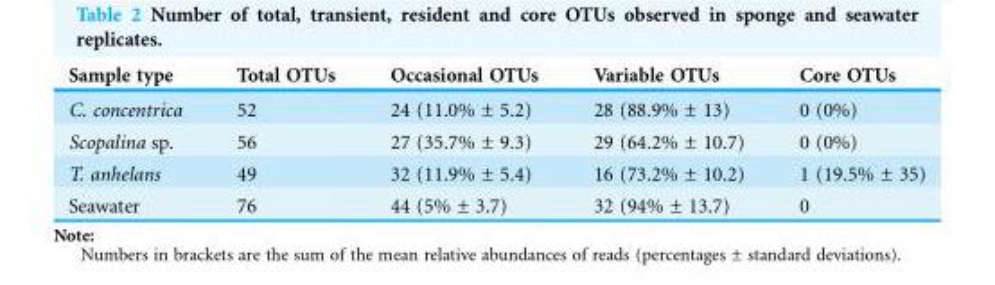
<table><thead><tr><td>Sample type</td><td>Total OTUs</td><td>Occasional OTUs</td><td>Variable OTUs</td><td>Core OTUs</td></tr></thead><tbody><tr><td>C. concentrica</td><td>52</td><td>24 (11.0% ± 5.2)</td><td>28 (88.9% ± 13)</td><td>0 (0%)</td></tr><tr><td>Scopalina sp.</td><td>56</td><td>27 (35.7% ± 9.3)</td><td>29 (64.2% ± 10.7)</td><td>0 (0%)</td></tr><tr><td>T. anhelans</td><td>49</td><td>32 (11.9% ± 5.4)</td><td>16 (73.2% ± 10.2)</td><td>1 (19.5% ± 35)</td></tr><tr><td>Seawater</td><td>76</td><td>44 (5% ± 3.7)</td><td>32 (94% ± 13.7)</td><td>0</td></tr></tbody></table>